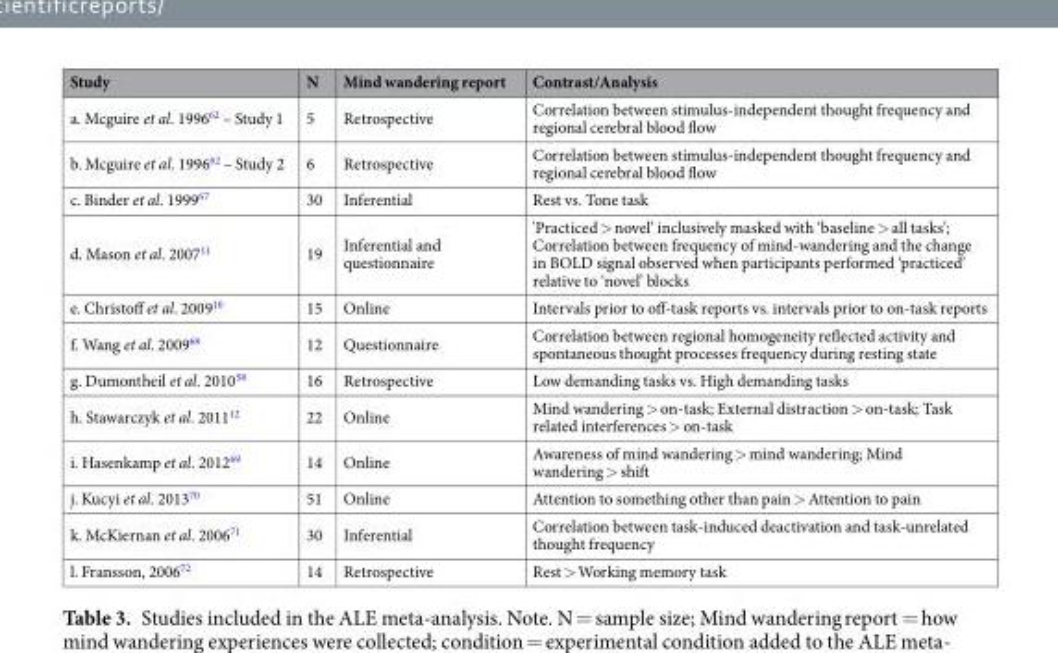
<table><thead><tr><td>Study</td><td>N</td><td>Mind wandering report</td><td>Contrast/Analysis</td></tr></thead><tbody><tr><td>a. Mcguire et al. 1996<sup>62</sup> – Study 1</td><td>5</td><td>Retrospective</td><td>Correlation between stimulus-independent thought frequency and regional cerebral blood flow</td></tr><tr><td>b. Mcguire et al. 1996<sup>62</sup> – Study 2</td><td>6</td><td>Retrospective</td><td>Correlation between stimulus-independent thought frequency and regional cerebral blood flow</td></tr><tr><td>c. Binder et al. 1999<sup>67</sup></td><td>30</td><td>Inferential</td><td>Rest vs. Tone task</td></tr><tr><td>d. Mason et al. 2007<sup>11</sup></td><td>19</td><td>Inferential and questionnaire</td><td>&#x27;Practiced &gt; novel’ inclusively masked with ‘baseline &gt; all tasks’; Correlation between frequency of mind-wandering and the change in BOLD signal observed when participants performed ‘practiced’ relative to ‘novel’ blocks</td></tr><tr><td>e. Christoff et al. 2009<sup>10</sup></td><td>15</td><td>Online</td><td>Intervals prior to off-task reports vs. intervals prior to on-task reports</td></tr><tr><td>f. Wang et al. 2009<sup>68</sup></td><td>12</td><td>Questionnaire</td><td>Correlation between regional homogeneity reflected activity and spontaneous thought processes frequency during resting state</td></tr><tr><td>g. Dumontheil et al. 2010<sup>58</sup></td><td>16</td><td>Retrospective</td><td>Low demanding tasks vs. High demanding tasks</td></tr><tr><td>h. Stawarczyk et al. 2011<sup>12</sup></td><td>22</td><td>Online</td><td>Mind wandering &gt; on-task; External distraction &gt; on-task; Task related interferences &gt; on-task</td></tr><tr><td>i. Hasenkamp et al. 2012<sup>69</sup></td><td>14</td><td>Online</td><td>Awareness of mind wandering &gt; mind wandering; Mind wandering &gt; shift</td></tr><tr><td>j. Kucyi et al. 2013<sup>70</sup></td><td>51</td><td>Online</td><td>Attention to something other than pain &gt; Attention to pain</td></tr><tr><td>k. McKiernan et al. 2006<sup>71</sup></td><td>30</td><td>Inferential</td><td>Correlation between task-induced deactivation and task-unrelated thought frequency</td></tr><tr><td>l. Fransson, 2006<sup>72</sup></td><td>14</td><td>Retrospective</td><td>Rest &gt; Working memory task</td></tr></tbody></table>